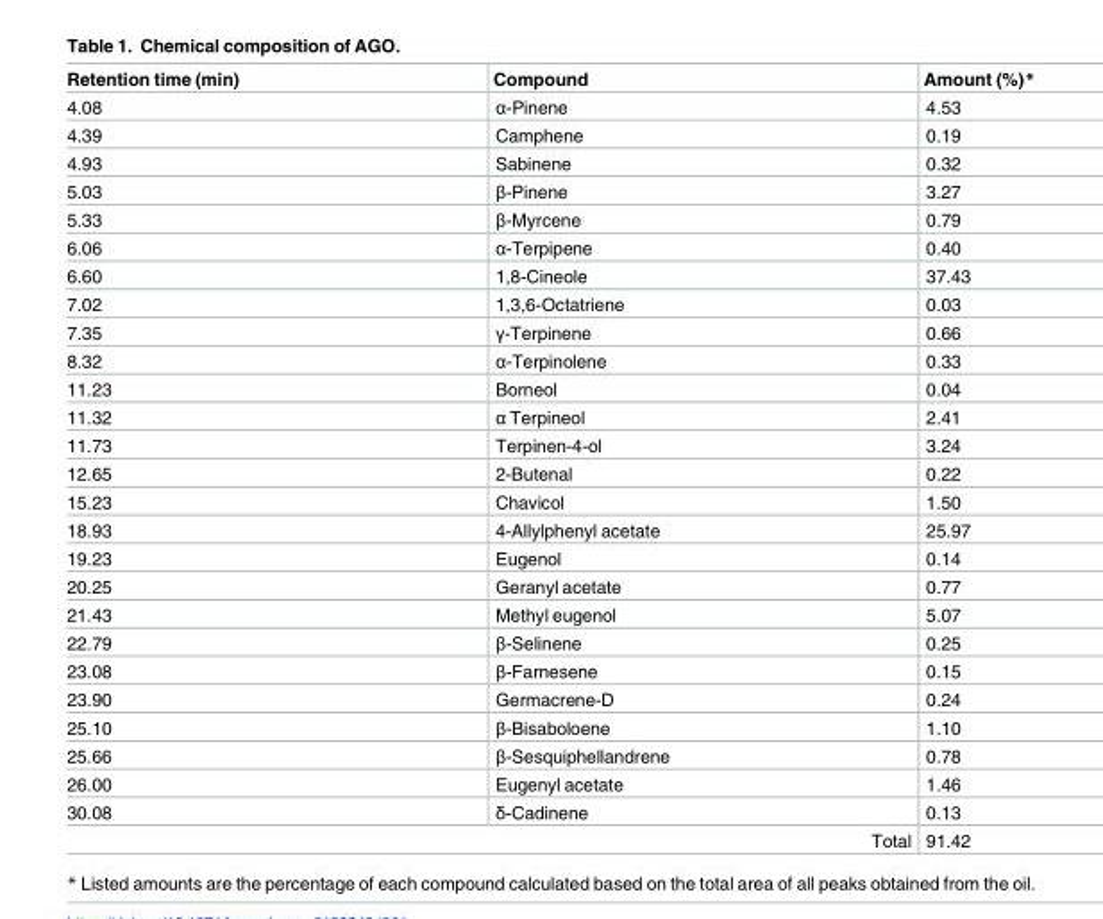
<table><thead><tr><td>Retention time (min)</td><td>Compound</td><td>Amount (%)*</td></tr></thead><tbody><tr><td>4.08</td><td>α-Pinene</td><td>4.53</td></tr><tr><td>4.39</td><td>Camphene</td><td>0.19</td></tr><tr><td>4.93</td><td>Sabinene</td><td>0.32</td></tr><tr><td>5.03</td><td>β-Pinene</td><td>3.27</td></tr><tr><td>5.33</td><td>β-Myrcene</td><td>0.79</td></tr><tr><td>6.06</td><td>α-Terpipene</td><td>0.40</td></tr><tr><td>6.60</td><td>1,8-Cineole</td><td>37.43</td></tr><tr><td>7.02</td><td>1,3,6-Octatriene</td><td>0.03</td></tr><tr><td>7.35</td><td>γ-Terpinene</td><td>0.66</td></tr><tr><td>8.32</td><td>α-Terpinolene</td><td>0.33</td></tr><tr><td>11.23</td><td>Borneol</td><td>0.04</td></tr><tr><td>11.32</td><td>α Terpineol</td><td>2.41</td></tr><tr><td>11.73</td><td>Terpinen-4-ol</td><td>3.24</td></tr><tr><td>12.65</td><td>2-Butenal</td><td>0.22</td></tr><tr><td>15.23</td><td>Chavicol</td><td>1.50</td></tr><tr><td>18.93</td><td>4-Allylphenyl acetate</td><td>25.97</td></tr><tr><td>19.23</td><td>Eugenol</td><td>0.14</td></tr><tr><td>20.25</td><td>Geranyl acetate</td><td>0.77</td></tr><tr><td>21.43</td><td>Methyl eugenol</td><td>5.07</td></tr><tr><td>22.79</td><td>β-Selinene</td><td>0.25</td></tr><tr><td>23.08</td><td>β-Farnesene</td><td>0.15</td></tr><tr><td>23.90</td><td>Germacrene-D</td><td>0.24</td></tr><tr><td>25.10</td><td>β-Bisaboloene</td><td>1.10</td></tr><tr><td>25.66</td><td>β-Sesquiphellandrene</td><td>0.78</td></tr><tr><td>26.00</td><td>Eugenyl acetate</td><td>1.46</td></tr><tr><td>30.08</td><td>δ-Cadinene</td><td>0.13</td></tr><tr><td colspan="2">Total</td><td>91.42</td></tr></tbody></table>